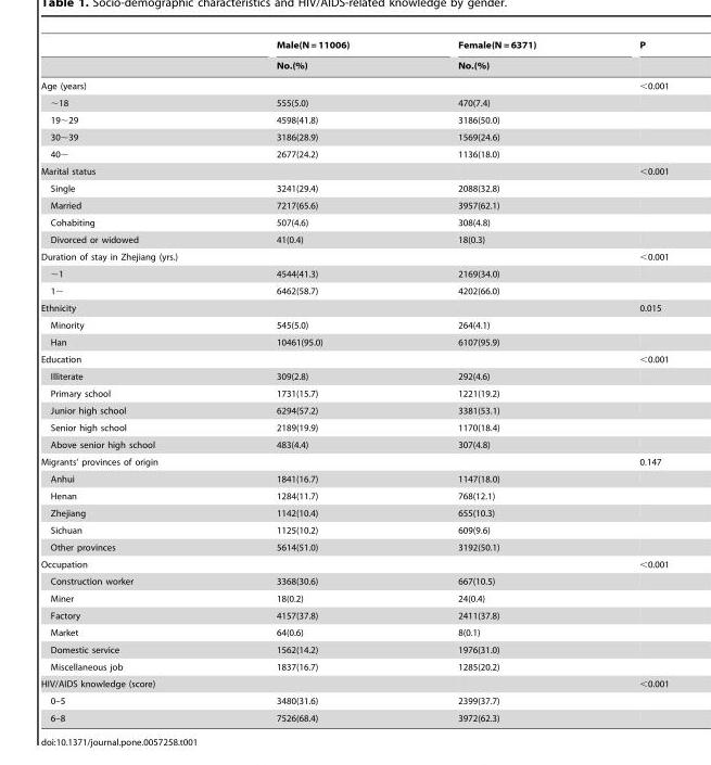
<table><thead><tr><td rowspan="2"></td><td rowspan="2">Male(N = 11006) No.(%)</td><td rowspan="2">Female(N = 6371) No.(%)</td><td rowspan="2">P</td></tr><tr></tr></thead><tbody><tr><td>Age (years)</td><td></td><td></td><td>&lt;0.001</td></tr><tr><td>∼18</td><td>555(5.0)</td><td>470(7.4)</td><td></td></tr><tr><td>19∼29</td><td>4598(41.8)</td><td>3186(50.0)</td><td></td></tr><tr><td>30∼39</td><td>3186(28.9)</td><td>1569(24.6)</td><td></td></tr><tr><td>40∼</td><td>2677(24.2)</td><td>1136(18.0)</td><td></td></tr><tr><td>Marital status</td><td></td><td></td><td>&lt;0.001</td></tr><tr><td>Single</td><td>3241(29.4)</td><td>2088(32.8)</td><td></td></tr><tr><td>Married</td><td>7217(65.6)</td><td>3957(62.1)</td><td></td></tr><tr><td>Cohabiting</td><td>507(4.6)</td><td>308(4.8)</td><td></td></tr><tr><td>Divorced or widowed</td><td>41(0.4)</td><td>18(0.3)</td><td></td></tr><tr><td>Duration of stay in Zhejiang (yrs.)</td><td></td><td></td><td>&lt;0.001</td></tr><tr><td>∼1</td><td>4544(41.3)</td><td>2169(34.0)</td><td></td></tr><tr><td>1∼</td><td>6462(58.7)</td><td>4202(66.0)</td><td></td></tr><tr><td>Ethnicity</td><td></td><td></td><td>0.015</td></tr><tr><td>Minority</td><td>545(5.0)</td><td>264(4.1)</td><td></td></tr><tr><td>Han</td><td>10461(95.0)</td><td>6107(95.9)</td><td></td></tr><tr><td>Education</td><td></td><td></td><td>&lt;0.001</td></tr><tr><td>Illiterate</td><td>309(2.8)</td><td>292(4.6)</td><td></td></tr><tr><td>Primary school</td><td>1731(15.7)</td><td>1221(19.2)</td><td></td></tr><tr><td>Junior high school</td><td>6294(57.2)</td><td>3381(53.1)</td><td></td></tr><tr><td>Senior high school</td><td>2189(19.9)</td><td>1170(18.4)</td><td></td></tr><tr><td>Above senior high school</td><td>483(4.4)</td><td>307(4.8)</td><td></td></tr><tr><td>Migrants’ provinces of origin</td><td></td><td></td><td>0.147</td></tr><tr><td>Anhui</td><td>1841(16.7)</td><td>1147(18.0)</td><td></td></tr><tr><td>Henan</td><td>1284(11.7)</td><td>768(12.1)</td><td></td></tr><tr><td>Zhejiang</td><td>1142(10.4)</td><td>655(10.3)</td><td></td></tr><tr><td>Sichuan</td><td>1125(10.2)</td><td>609(9.6)</td><td></td></tr><tr><td>Other provinces</td><td>5614(51.0)</td><td>3192(50.1)</td><td></td></tr><tr><td>Occupation</td><td></td><td></td><td>&lt;0.001</td></tr><tr><td>Construction worker</td><td>3368(30.6)</td><td>667(10.5)</td><td></td></tr><tr><td>Miner</td><td>18(0.2)</td><td>24(0.4)</td><td></td></tr><tr><td>Factory</td><td>4157(37.8)</td><td>2411(37.8)</td><td></td></tr><tr><td>Market</td><td>64(0.6)</td><td>8(0.1)</td><td></td></tr><tr><td>Domestic service</td><td>1562(14.2)</td><td>1976(31.0)</td><td></td></tr><tr><td>Miscellaneous job</td><td>1837(16.7)</td><td>1285(20.2)</td><td></td></tr><tr><td>HIV/AIDS knowledge (score)</td><td></td><td></td><td>&lt;0.001</td></tr><tr><td>0–5</td><td>3480(31.6)</td><td>2399(37.7)</td><td></td></tr><tr><td>6–8</td><td>7526(68.4)</td><td>3972(62.3)</td><td></td></tr></tbody></table>